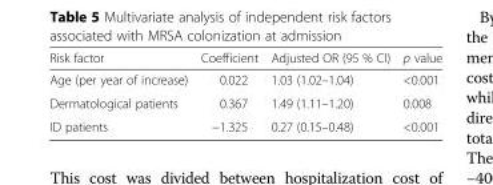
<table><thead><tr><td>Risk factor</td><td>Coefficient</td><td>Adjusted OR (95 % CI)</td><td>p value</td></tr></thead><tbody><tr><td>Age (per year of increase)</td><td>0.022</td><td>1.03 (1.02–1.04)</td><td>&lt;0.001</td></tr><tr><td>Dermatological patients</td><td>0.367</td><td>1.49 (1.11–1.20)</td><td>0.008</td></tr><tr><td>ID patients</td><td>−1.325</td><td>0.27 (0.15–0.48)</td><td>&lt;0.001</td></tr></tbody></table>